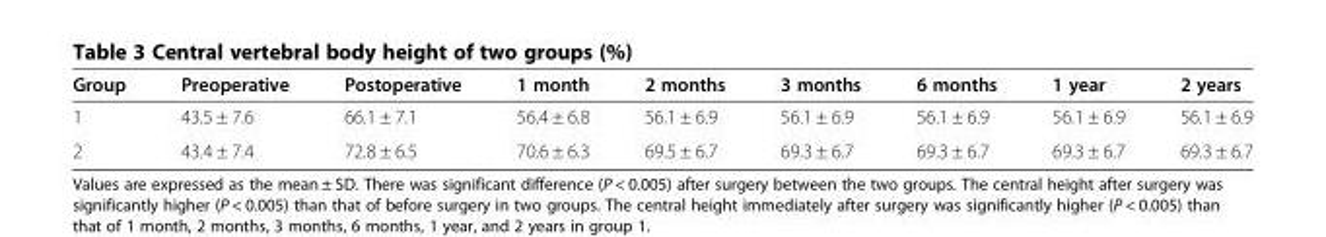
<table><thead><tr><td>Group</td><td>Preoperative</td><td>Postoperative</td><td>1 month</td><td>2 months</td><td>3 months</td><td>6 months</td><td>1 year</td><td>2 years</td></tr></thead><tbody><tr><td>1</td><td>43.5 ± 7.6</td><td>66.1 ± 7.1</td><td>56.4 ± 6.8</td><td>56.1 ± 6.9</td><td>56.1 ± 6.9</td><td>56.1 ± 6.9</td><td>56.1 ± 6.9</td><td>56.1 ± 6.9</td></tr><tr><td>2</td><td>43.4 ± 7.4</td><td>72.8 ± 6.5</td><td>70.6 ± 6.3</td><td>69.5 ± 6.7</td><td>69.3 ± 6.7</td><td>69.3 ± 6.7</td><td>69.3 ± 6.7</td><td>69.3 ± 6.7</td></tr></tbody></table>